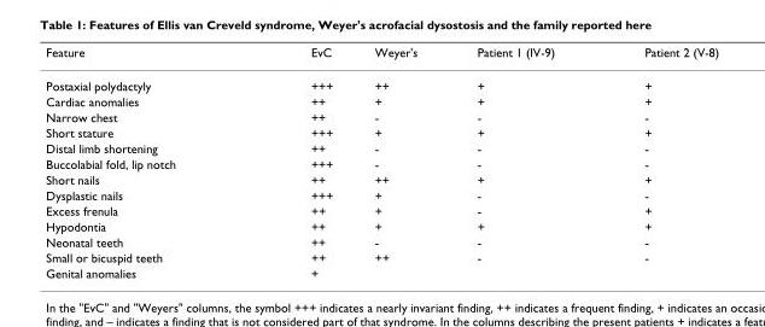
<table><thead><tr><td>Feature</td><td>EvC</td><td>Weyer&#x27;s</td><td>Patient 1 (IV-9)</td><td>Patient 2 (V-8)</td></tr></thead><tbody><tr><td>Postaxial polydactyly</td><td>+++</td><td>++</td><td>+</td><td>+</td></tr><tr><td>Cardiac anomalies</td><td>++</td><td>+</td><td>+</td><td>+</td></tr><tr><td>Narrow chest</td><td>++</td><td>-</td><td>-</td><td>-</td></tr><tr><td>Short stature</td><td>+++</td><td>+</td><td>+</td><td>+</td></tr><tr><td>Distal limb shortening</td><td>++</td><td>-</td><td>-</td><td>-</td></tr><tr><td>Buccolabial fold, lip notch</td><td>+++</td><td>-</td><td>-</td><td>-</td></tr><tr><td>Short nails</td><td>++</td><td>++</td><td>+</td><td>+</td></tr><tr><td>Dysplastic nails</td><td>+++</td><td>+</td><td>-</td><td>-</td></tr><tr><td>Excess frenula</td><td>++</td><td>+</td><td>-</td><td>+</td></tr><tr><td>Hypodontia</td><td>++</td><td>+</td><td>+</td><td>+</td></tr><tr><td>Neonatal teeth</td><td>++</td><td>-</td><td>-</td><td>-</td></tr><tr><td>Small or bicuspid teeth</td><td>++</td><td>++</td><td>-</td><td>-</td></tr><tr><td>Genital anomalies</td><td>+</td><td></td><td></td><td></td></tr></tbody></table>